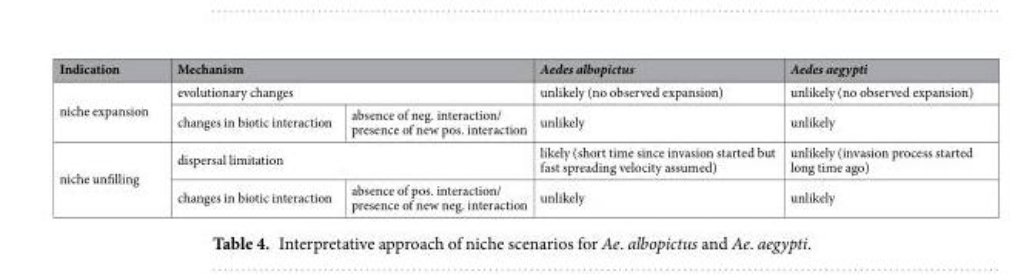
<table><thead><tr><td rowspan="3">Indication niche expansion</td><td rowspan="2" colspan="2">Mechanism evolutionary changes</td><td rowspan="3">Aedes albopictus unlikely (no observed expansion) unlikely</td><td rowspan="3">Aedes aegypti unlikely (no observed expansion) unlikely</td></tr><tr></tr><tr><td>changes in biotic interaction</td><td>absence of neg. interaction/ presence of new pos. interaction</td></tr></thead><tbody><tr><td rowspan="2">niche unfilling</td><td colspan="2">dispersal limitation</td><td>likely (short time since invasion started but fast spreading velocity assumed)</td><td>unlikely (invasion process started long time ago)</td></tr><tr><td>changes in biotic interaction</td><td>absence of pos. interaction/ presence of new neg. interaction</td><td>unlikely</td><td>unlikely</td></tr></tbody></table>